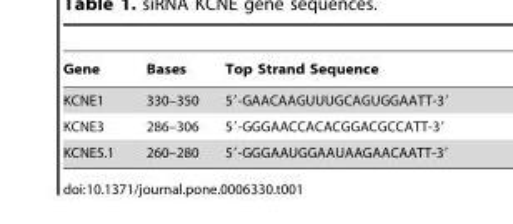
<table><thead><tr><td>Gene</td><td>Bases</td><td>Top Strand Sequence</td></tr></thead><tbody><tr><td>KCNE1</td><td>330–350</td><td>5′-GAACAAGUUUGCAGUGGAATT-3′</td></tr><tr><td>KCNE3</td><td>286–306</td><td>5′-GGGAACCACACGGACGCCATT-3′</td></tr><tr><td>KCNE5.1</td><td>260–280</td><td>5′-GGGAAUGGAAUAAGAACAATT-3′</td></tr></tbody></table>